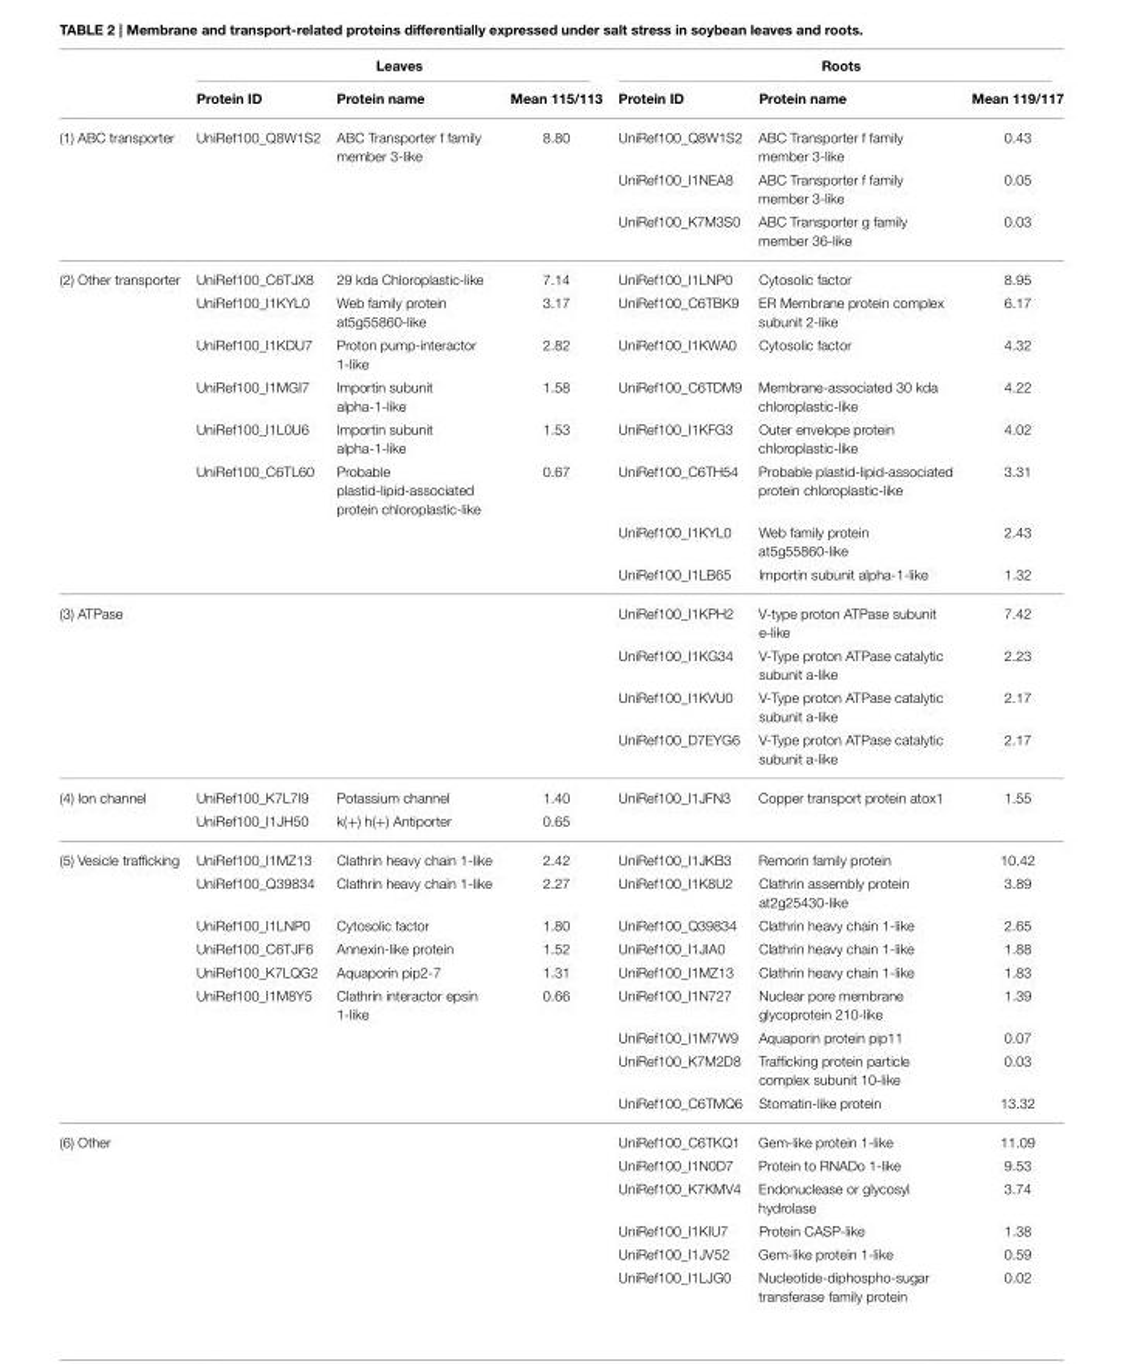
<table><thead><tr><td rowspan="2"></td><td colspan="3">Leaves</td><td colspan="3">Roots</td></tr><tr><td>Protein ID</td><td>Protein name</td><td>Mean 115/113</td><td>Protein ID</td><td>Protein name</td><td>Mean 119/117</td></tr></thead><tbody><tr><td rowspan="3">(1) ABC transporter</td><td>UniRef100_Q8W1S2</td><td>ABC Transporter f family member 3-like</td><td>8.80</td><td>UniRef100_Q8W1S2</td><td>ABC Transporter f family member 3-like</td><td>0.43</td></tr><tr><td></td><td></td><td></td><td>UniRef100_I1NEA8</td><td>ABC Transporter f family member 3-like</td><td>0.05</td></tr><tr><td></td><td></td><td></td><td>UniRef100_K7M3S0</td><td>ABC Transporter g family member 36-like</td><td>0.03</td></tr><tr><td rowspan="8">(2) Other transporter</td><td>UniRef100_C6TJX8</td><td>29 kda Chloroplastic-like</td><td>7.14</td><td>UniRef100_I1LNP0</td><td>Cytosolic factor</td><td>8.95</td></tr><tr><td>UniRef100_I1KYL0</td><td>Web family protein at5g55860-like</td><td>3.17</td><td>UniRef100_C6TBK9</td><td>ER Membrane protein complex subunit 2-like</td><td>6.17</td></tr><tr><td>UniRef100_I1KDU7</td><td>Proton pump-interactor 1-like</td><td>2.82</td><td>UniRef100_I1KWA0</td><td>Cytosolic factor</td><td>4.32</td></tr><tr><td>UniRef100_I1MGI7</td><td>Importin subunit alpha-1-like</td><td>1.58</td><td>UniRef100_C6TDM9</td><td>Membrane-associated 30 kda chloroplastic-like</td><td>4.22</td></tr><tr><td>UniRef100_I1L0U6</td><td>Importin subunit alpha-1-like</td><td>1.53</td><td>UniRef100_I1KFG3</td><td>Outer envelope protein chloroplastic-like</td><td>4.02</td></tr><tr><td>UniRef100_C6TL60</td><td>Probable plastid-lipid-associated protein chloroplastic-like</td><td>0.67</td><td>UniRef100_C6TH54</td><td>Probable plastid-lipid-associated protein chloroplastic-like</td><td>3.31</td></tr><tr><td></td><td></td><td></td><td>UniRef100_I1KYL0</td><td>Web family protein at5g55860-like</td><td>2.43</td></tr><tr><td></td><td></td><td></td><td>UniRef100_I1LB65</td><td>Importin subunit alpha-1-like</td><td>1.32</td></tr><tr><td rowspan="4">(3) ATPase</td><td></td><td></td><td></td><td>UniRef100_I1KPH2</td><td>V-type proton ATPase subunit e-like</td><td>7.42</td></tr><tr><td></td><td></td><td></td><td>UniRef100_I1KG34</td><td>V-Type proton ATPase catalytic subunit a-like</td><td>2.23</td></tr><tr><td></td><td></td><td></td><td>UniRef100_I1KVU0</td><td>V-Type proton ATPase catalytic subunit a-like</td><td>2.17</td></tr><tr><td></td><td></td><td></td><td>UniRef100_D7EYG6</td><td>V-Type proton ATPase catalytic subunit a-like</td><td>2.17</td></tr><tr><td rowspan="2">(4) Ion channel</td><td>UniRef100_K7L7I9</td><td>Potassium channel</td><td>1.40</td><td>UniRef100_I1JFN3</td><td>Copper transport protein atox1</td><td>1.55</td></tr><tr><td>UniRef100_I1JH50</td><td>k(+) h(+) Antiporter</td><td>0.65</td><td></td><td></td><td></td></tr><tr><td rowspan="9">(5) Vesicle trafficking</td><td>UniRef100_I1MZ13</td><td>Clathrin heavy chain 1-like</td><td>2.42</td><td>UniRef100_I1JKB3</td><td>Remorin family protein</td><td>10.42</td></tr><tr><td>UniRef100_Q39834</td><td>Clathrin heavy chain 1-like</td><td>2.27</td><td>UniRef100_I1K8U2</td><td>Clathrin assembly protein at2g25430-like</td><td>3.89</td></tr><tr><td>UniRef100_I1LNP0</td><td>Cytosolic factor</td><td>1.80</td><td>UniRef100_Q39834</td><td>Clathrin heavy chain 1-like</td><td>2.65</td></tr><tr><td>UniRef100_C6TJF6</td><td>Annexin-like protein</td><td>1.52</td><td>UniRef100_I1JIA0</td><td>Clathrin heavy chain 1-like</td><td>1.88</td></tr><tr><td>UniRef100_K7LQG2</td><td>Aquaporin pip2-7</td><td>1.31</td><td>UniRef100_I1MZ13</td><td>Clathrin heavy chain 1-like</td><td>1.83</td></tr><tr><td>UniRef100_I1M8Y5</td><td>Clathrin interactor epsin 1-like</td><td>0.66</td><td>UniRef100_I1N727</td><td>Nuclear pore membrane glycoprotein 210-like</td><td>1.39</td></tr><tr><td></td><td></td><td></td><td>UniRef100_I1M7W9</td><td>Aquaporin protein pip11</td><td>0.07</td></tr><tr><td></td><td></td><td></td><td>UniRef100_K7M2D8</td><td>Trafficking protein particle complex subunit 10-like</td><td>0.03</td></tr><tr><td></td><td></td><td></td><td>UniRef100_C6TMQ6</td><td>Stomatin-like protein</td><td>13.32</td></tr><tr><td rowspan="6">(6) Other</td><td></td><td></td><td></td><td>UniRef100_C6TKQ1</td><td>Gem-like protein 1-like</td><td>11.09</td></tr><tr><td></td><td></td><td></td><td>UniRef100_I1N0D7</td><td>Protein to RNADo 1-like</td><td>9.53</td></tr><tr><td></td><td></td><td></td><td>UniRef100_K7KMV4</td><td>Endonuclease or glycosyl hydrolase</td><td>3.74</td></tr><tr><td></td><td></td><td></td><td>UniRef100_I1KIU7</td><td>Protein CASP-like</td><td>1.38</td></tr><tr><td></td><td></td><td></td><td>UniRef100_I1JV52</td><td>Gem-like protein 1-like</td><td>0.59</td></tr><tr><td></td><td></td><td></td><td>UniRef100_I1LJG0</td><td>Nucleotide-diphospho-sugar transferase family protein</td><td>0.02</td></tr></tbody></table>